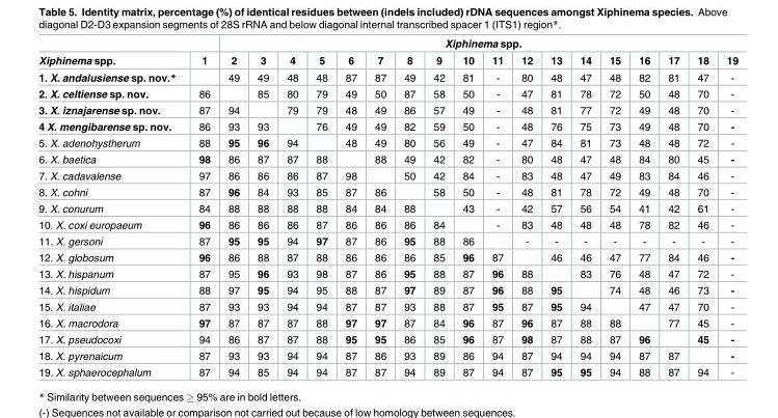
<table><thead><tr><td rowspan="2">Xiphinema spp.</td><td rowspan="2">1</td><td colspan="18">Xiphinema spp.</td></tr><tr><td>2</td><td>3</td><td>4</td><td>5</td><td>6</td><td>7</td><td>8</td><td>9</td><td>10</td><td>11</td><td>12</td><td>13</td><td>14</td><td>15</td><td>16</td><td>17</td><td>18</td><td>19</td></tr></thead><tbody><tr><td>1. X. andalusiense sp. nov.*</td><td></td><td>49</td><td>49</td><td>48</td><td>48</td><td>87</td><td>87</td><td>49</td><td>42</td><td>81</td><td>-</td><td>80</td><td>48</td><td>47</td><td>48</td><td>82</td><td>81</td><td>47</td><td>-</td></tr><tr><td>2. X. celtiense sp. nov.</td><td>86</td><td></td><td>85</td><td>80</td><td>79</td><td>49</td><td>50</td><td>87</td><td>58</td><td>50</td><td>-</td><td>47</td><td>81</td><td>78</td><td>72</td><td>50</td><td>48</td><td>70</td><td>-</td></tr><tr><td>3. X. iznajarense sp. nov.</td><td>87</td><td>94</td><td></td><td>79</td><td>79</td><td>48</td><td>49</td><td>86</td><td>57</td><td>49</td><td>-</td><td>48</td><td>81</td><td>77</td><td>72</td><td>49</td><td>48</td><td>70</td><td>-</td></tr><tr><td>4 X. mengibarense sp. nov.</td><td>86</td><td>93</td><td>93</td><td></td><td>76</td><td>49</td><td>49</td><td>82</td><td>59</td><td>50</td><td>-</td><td>48</td><td>76</td><td>75</td><td>73</td><td>49</td><td>48</td><td>70</td><td>-</td></tr><tr><td>5. X. adenohystherum</td><td>88</td><td>95</td><td>96</td><td>94</td><td></td><td>48</td><td>49</td><td>80</td><td>56</td><td>49</td><td>-</td><td>47</td><td>84</td><td>81</td><td>73</td><td>48</td><td>48</td><td>72</td><td>-</td></tr><tr><td>6. X. baetica</td><td>98</td><td>86</td><td>87</td><td>87</td><td>88</td><td></td><td>88</td><td>49</td><td>42</td><td>82</td><td>-</td><td>80</td><td>48</td><td>47</td><td>48</td><td>84</td><td>80</td><td>45</td><td>-</td></tr><tr><td>7. X. cadavalense</td><td>97</td><td>86</td><td>86</td><td>86</td><td>87</td><td>98</td><td></td><td>50</td><td>42</td><td>84</td><td>-</td><td>83</td><td>48</td><td>47</td><td>49</td><td>83</td><td>84</td><td>46</td><td>-</td></tr><tr><td>8. X. cohni</td><td>87</td><td>96</td><td>84</td><td>93</td><td>85</td><td>87</td><td>86</td><td></td><td>58</td><td>50</td><td>-</td><td>48</td><td>81</td><td>78</td><td>72</td><td>49</td><td>48</td><td>70</td><td>-</td></tr><tr><td>9. X. conurum</td><td>84</td><td>88</td><td>88</td><td>88</td><td>88</td><td>84</td><td>84</td><td>88</td><td></td><td>43</td><td>-</td><td>42</td><td>57</td><td>56</td><td>54</td><td>41</td><td>42</td><td>61</td><td>-</td></tr><tr><td>10. X. coxi europaeum</td><td>96</td><td>86</td><td>86</td><td>86</td><td>87</td><td>86</td><td>86</td><td>86</td><td>84</td><td></td><td>-</td><td>83</td><td>48</td><td>48</td><td>48</td><td>78</td><td>82</td><td>46</td><td>-</td></tr><tr><td>11. X. gersoni</td><td>87</td><td>95</td><td>95</td><td>94</td><td>97</td><td>87</td><td>86</td><td>95</td><td>88</td><td>86</td><td></td><td>-</td><td>-</td><td>-</td><td>-</td><td>-</td><td>-</td><td>-</td><td>-</td></tr><tr><td>12. X. globosum</td><td>96</td><td>86</td><td>88</td><td>87</td><td>88</td><td>86</td><td>86</td><td>86</td><td>85</td><td>96</td><td>87</td><td></td><td>46</td><td>46</td><td>47</td><td>77</td><td>84</td><td>46</td><td>-</td></tr><tr><td>13. X. hispanum</td><td>87</td><td>95</td><td>96</td><td>93</td><td>98</td><td>87</td><td>86</td><td>95</td><td>88</td><td>87</td><td>96</td><td>88</td><td></td><td>83</td><td>76</td><td>48</td><td>47</td><td>72</td><td>-</td></tr><tr><td>14. X. hispidum</td><td>88</td><td>97</td><td>95</td><td>94</td><td>95</td><td>88</td><td>87</td><td>97</td><td>89</td><td>87</td><td>96</td><td>88</td><td>95</td><td></td><td>74</td><td>48</td><td>46</td><td>73</td><td>-</td></tr><tr><td>15. X. italiae</td><td>87</td><td>93</td><td>93</td><td>94</td><td>94</td><td>87</td><td>87</td><td>93</td><td>88</td><td>87</td><td>95</td><td>87</td><td>95</td><td>94</td><td></td><td>47</td><td>47</td><td>70</td><td>-</td></tr><tr><td>16. X. macrodora</td><td>97</td><td>87</td><td>87</td><td>87</td><td>88</td><td>97</td><td>97</td><td>87</td><td>84</td><td>96</td><td>87</td><td>96</td><td>87</td><td>88</td><td>88</td><td></td><td>77</td><td>45</td><td>-</td></tr><tr><td>17. X. pseudocoxi</td><td>94</td><td>86</td><td>87</td><td>87</td><td>88</td><td>95</td><td>95</td><td>86</td><td>85</td><td>96</td><td>87</td><td>98</td><td>87</td><td>88</td><td>87</td><td>96</td><td></td><td>45</td><td>-</td></tr><tr><td>18. X. pyrenaicum</td><td>87</td><td>93</td><td>93</td><td>94</td><td>94</td><td>87</td><td>86</td><td>93</td><td>89</td><td>86</td><td>94</td><td>87</td><td>94</td><td>94</td><td>94</td><td>87</td><td>87</td><td></td><td>-</td></tr><tr><td>19. X. sphaerocephalum</td><td>87</td><td>94</td><td>85</td><td>94</td><td>94</td><td>87</td><td>87</td><td>94</td><td>89</td><td>87</td><td>94</td><td>87</td><td>95</td><td>95</td><td>94</td><td>88</td><td>87</td><td>94</td><td>-</td></tr></tbody></table>